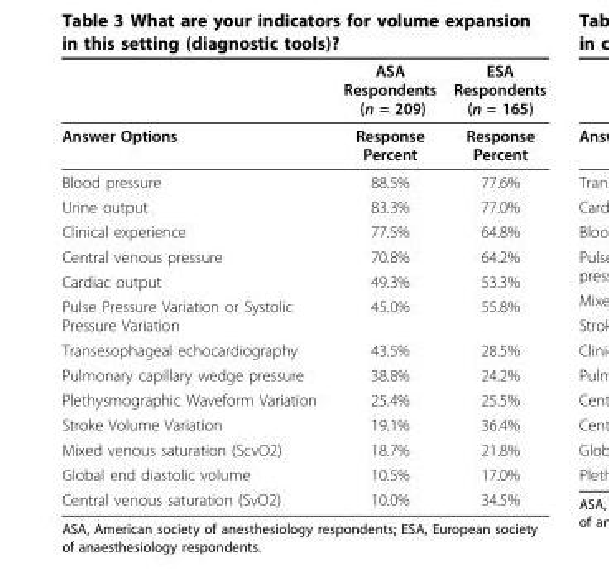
<table><thead><tr><td></td><td>ASA Respondents (n = 209)</td><td>ESA Respondents (n = 165)</td></tr></thead><tbody><tr><td>Answer Options</td><td>Response Percent</td><td>Response Percent</td></tr><tr><td>Blood pressure</td><td>88.5%</td><td>77.6%</td></tr><tr><td>Urine output</td><td>83.3%</td><td>77.0%</td></tr><tr><td>Clinical experience</td><td>77.5%</td><td>64.8%</td></tr><tr><td>Central venous pressure</td><td>70.8%</td><td>64.2%</td></tr><tr><td>Cardiac output</td><td>49.3%</td><td>53.3%</td></tr><tr><td>Pulse Pressure Variation or Systolic Pressure Variation</td><td>45.0%</td><td>55.8%</td></tr><tr><td>Transesophageal echocardiography</td><td>43.5%</td><td>28.5%</td></tr><tr><td>Pulmonary capillary wedge pressure</td><td>38.8%</td><td>24.2%</td></tr><tr><td>Plethysmographic Waveform Variation</td><td>25.4%</td><td>25.5%</td></tr><tr><td>Stroke Volume Variation</td><td>19.1%</td><td>36.4%</td></tr><tr><td>Mixed venous saturation (ScvO2)</td><td>18.7%</td><td>21.8%</td></tr><tr><td>Global end diastolic volume</td><td>10.5%</td><td>17.0%</td></tr><tr><td>Central venous saturation (SvO2)</td><td>10.0%</td><td>34.5%</td></tr></tbody></table>